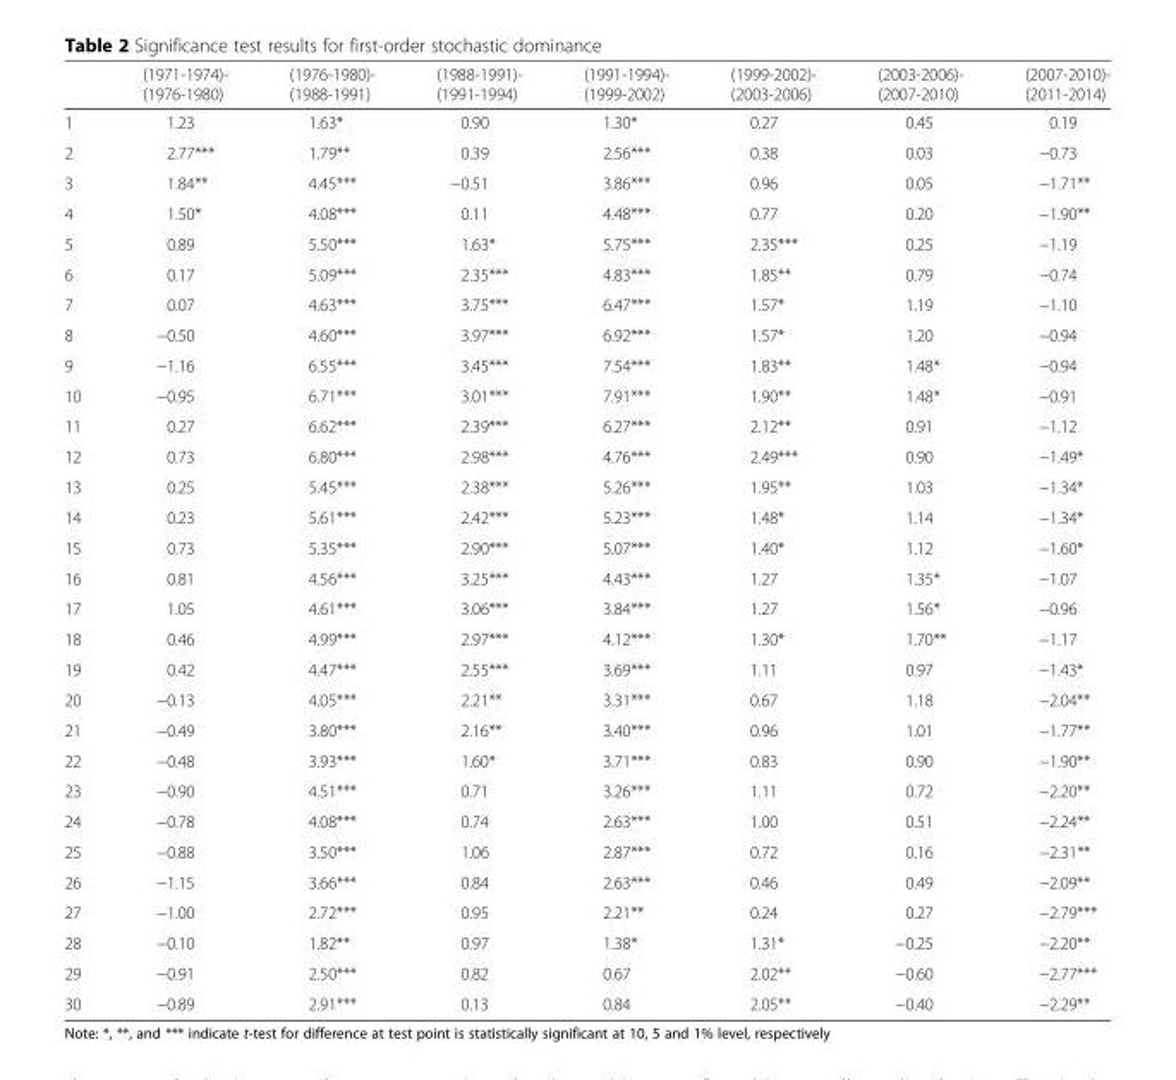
<table><thead><tr><td></td><td>(1971-1974)- (1976-1980)</td><td>(1976-1980)- (1988-1991)</td><td>(1988-1991)- (1991-1994)</td><td>(1991-1994)- (1999-2002)</td><td>(1999-2002)- (2003-2006)</td><td>(2003-2006)- (2007-2010)</td><td>(2007-2010)- (2011-2014)</td></tr></thead><tbody><tr><td>1</td><td>1.23</td><td>1.63*</td><td>0.90</td><td>1.30*</td><td>0.27</td><td>0.45</td><td>0.19</td></tr><tr><td>2</td><td>2.77***</td><td>1.79**</td><td>0.39</td><td>2.56***</td><td>0.38</td><td>0.03</td><td>−0.73</td></tr><tr><td>3</td><td>1.84**</td><td>4.45***</td><td>−0.51</td><td>3.86***</td><td>0.96</td><td>0.05</td><td>−1.71**</td></tr><tr><td>4</td><td>1.50*</td><td>4.08***</td><td>0.11</td><td>4.48***</td><td>0.77</td><td>0.20</td><td>−1.90**</td></tr><tr><td>5</td><td>0.89</td><td>5.50***</td><td>1.63*</td><td>5.75***</td><td>2.35***</td><td>0.25</td><td>−1.19</td></tr><tr><td>6</td><td>0.17</td><td>5.09***</td><td>2.35***</td><td>4.83***</td><td>1.85**</td><td>0.79</td><td>−0.74</td></tr><tr><td>7</td><td>0.07</td><td>4.63***</td><td>3.75***</td><td>6.47***</td><td>1.57*</td><td>1.19</td><td>−1.10</td></tr><tr><td>8</td><td>−0.50</td><td>4.60***</td><td>3.97***</td><td>6.92***</td><td>1.57*</td><td>1.20</td><td>−0.94</td></tr><tr><td>9</td><td>−1.16</td><td>6.55***</td><td>3.45***</td><td>7.54***</td><td>1.83**</td><td>1.48*</td><td>−0.94</td></tr><tr><td>10</td><td>−0.95</td><td>6.71***</td><td>3.01***</td><td>7.91***</td><td>1.90**</td><td>1.48*</td><td>−0.91</td></tr><tr><td>11</td><td>0.27</td><td>6.62***</td><td>2.39***</td><td>6.27***</td><td>2.12**</td><td>0.91</td><td>−1.12</td></tr><tr><td>12</td><td>0.73</td><td>6.80***</td><td>2.98***</td><td>4.76***</td><td>2.49***</td><td>0.90</td><td>−1.49*</td></tr><tr><td>13</td><td>0.25</td><td>5.45***</td><td>2.38***</td><td>5.26***</td><td>1.95**</td><td>1.03</td><td>−1.34*</td></tr><tr><td>14</td><td>0.23</td><td>5.61***</td><td>2.42***</td><td>5.23***</td><td>1.48*</td><td>1.14</td><td>−1.34*</td></tr><tr><td>15</td><td>0.73</td><td>5.35***</td><td>2.90***</td><td>5.07***</td><td>1.40*</td><td>1.12</td><td>−1.60*</td></tr><tr><td>16</td><td>0.81</td><td>4.56***</td><td>3.25***</td><td>4.43***</td><td>1.27</td><td>1.35*</td><td>−1.07</td></tr><tr><td>17</td><td>1.05</td><td>4.61***</td><td>3.06***</td><td>3.84***</td><td>1.27</td><td>1.56*</td><td>−0.96</td></tr><tr><td>18</td><td>0.46</td><td>4.99***</td><td>2.97***</td><td>4.12***</td><td>1.30*</td><td>1.70**</td><td>−1.17</td></tr><tr><td>19</td><td>0.42</td><td>4.47***</td><td>2.55***</td><td>3.69***</td><td>1.11</td><td>0.97</td><td>−1.43*</td></tr><tr><td>20</td><td>−0.13</td><td>4.05***</td><td>2.21**</td><td>3.31***</td><td>0.67</td><td>1.18</td><td>−2.04**</td></tr><tr><td>21</td><td>−0.49</td><td>3.80***</td><td>2.16**</td><td>3.40***</td><td>0.96</td><td>1.01</td><td>−1.77**</td></tr><tr><td>22</td><td>−0.48</td><td>3.93***</td><td>1.60*</td><td>3.71***</td><td>0.83</td><td>0.90</td><td>−1.90**</td></tr><tr><td>23</td><td>−0.90</td><td>4.51***</td><td>0.71</td><td>3.26***</td><td>1.11</td><td>0.72</td><td>−2.20**</td></tr><tr><td>24</td><td>−0.78</td><td>4.08***</td><td>0.74</td><td>2.63***</td><td>1.00</td><td>0.51</td><td>−2.24**</td></tr><tr><td>25</td><td>−0.88</td><td>3.50***</td><td>1.06</td><td>2.87***</td><td>0.72</td><td>0.16</td><td>−2.31**</td></tr><tr><td>26</td><td>−1.15</td><td>3.66***</td><td>0.84</td><td>2.63***</td><td>0.46</td><td>0.49</td><td>−2.09**</td></tr><tr><td>27</td><td>−1.00</td><td>2.72***</td><td>0.95</td><td>2.21**</td><td>0.24</td><td>0.27</td><td>−2.79***</td></tr><tr><td>28</td><td>−0.10</td><td>1.82**</td><td>0.97</td><td>1.38*</td><td>1.31*</td><td>−0.25</td><td>−2.20**</td></tr><tr><td>29</td><td>−0.91</td><td>2.50***</td><td>0.82</td><td>0.67</td><td>2.02**</td><td>−0.60</td><td>−2.77***</td></tr><tr><td>30</td><td>−0.89</td><td>2.91***</td><td>0.13</td><td>0.84</td><td>2.05**</td><td>−0.40</td><td>−2.29**</td></tr></tbody></table>